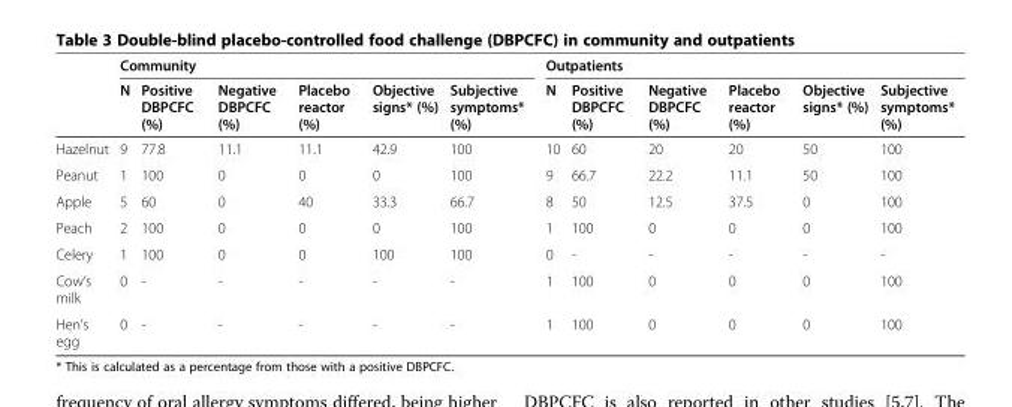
<table><thead><tr><td rowspan="2"></td><td colspan="6">Community</td><td colspan="6">Outpatients</td></tr><tr><td>N</td><td>Positive DBPCFC (%)</td><td>Negative DBPCFC (%)</td><td>Placebo reactor (%)</td><td>Objective signs* (%)</td><td>Subjective symptoms* (%)</td><td>N</td><td>Positive DBPCFC (%)</td><td>Negative DBPCFC (%)</td><td>Placebo reactor (%)</td><td>Objective signs* (%)</td><td>Subjective symptoms* (%)</td></tr></thead><tbody><tr><td>Hazelnut</td><td>9</td><td>77.8</td><td>11.1</td><td>11.1</td><td>42.9</td><td>100</td><td>10</td><td>60</td><td>20</td><td>20</td><td>50</td><td>100</td></tr><tr><td>Peanut</td><td>1</td><td>100</td><td>0</td><td>0</td><td>0</td><td>100</td><td>9</td><td>66.7</td><td>22.2</td><td>11.1</td><td>50</td><td>100</td></tr><tr><td>Apple</td><td>5</td><td>60</td><td>0</td><td>40</td><td>33.3</td><td>66.7</td><td>8</td><td>50</td><td>12.5</td><td>37.5</td><td>0</td><td>100</td></tr><tr><td>Peach</td><td>2</td><td>100</td><td>0</td><td>0</td><td>0</td><td>100</td><td>1</td><td>100</td><td>0</td><td>0</td><td>0</td><td>100</td></tr><tr><td>Celery</td><td>1</td><td>100</td><td>0</td><td>0</td><td>100</td><td>100</td><td>0</td><td>-</td><td>-</td><td>-</td><td>-</td><td>-</td></tr><tr><td>Cow’s milk</td><td>0</td><td>-</td><td>-</td><td>-</td><td>-</td><td>-</td><td>1</td><td>100</td><td>0</td><td>0</td><td>0</td><td>100</td></tr><tr><td>Hen’s egg</td><td>0</td><td>-</td><td>-</td><td>-</td><td>-</td><td>-</td><td>1</td><td>100</td><td>0</td><td>0</td><td>0</td><td>100</td></tr></tbody></table>